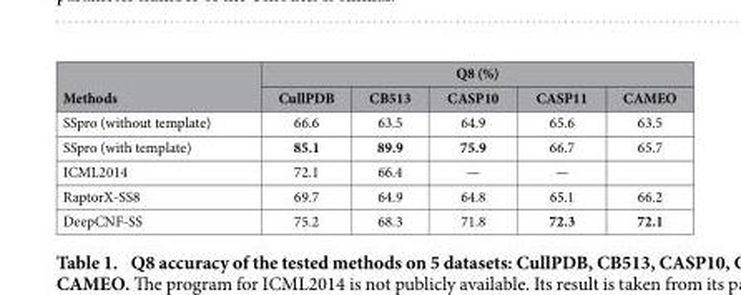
<table><thead><tr><td rowspan="2">Methods</td><td colspan="5">Q8 (%)</td></tr><tr><td>CullPDB</td><td>CB513</td><td>CASP10</td><td>CASP11</td><td>CAMEO</td></tr></thead><tbody><tr><td>SSpro (without template)</td><td>66.6</td><td>63.5</td><td>64.9</td><td>65.6</td><td>63.5</td></tr><tr><td>SSpro (with template)</td><td>85.1</td><td>89.9</td><td>75.9</td><td>66.7</td><td>65.7</td></tr><tr><td>ICML2014</td><td>72.1</td><td>66.4</td><td>—</td><td>—</td><td></td></tr><tr><td>RaptorX-SS8</td><td>69.7</td><td>64.9</td><td>64.8</td><td>65.1</td><td>66.2</td></tr><tr><td>DeepCNF-SS</td><td>75.2</td><td>68.3</td><td>71.8</td><td>72.3</td><td>72.1</td></tr></tbody></table>